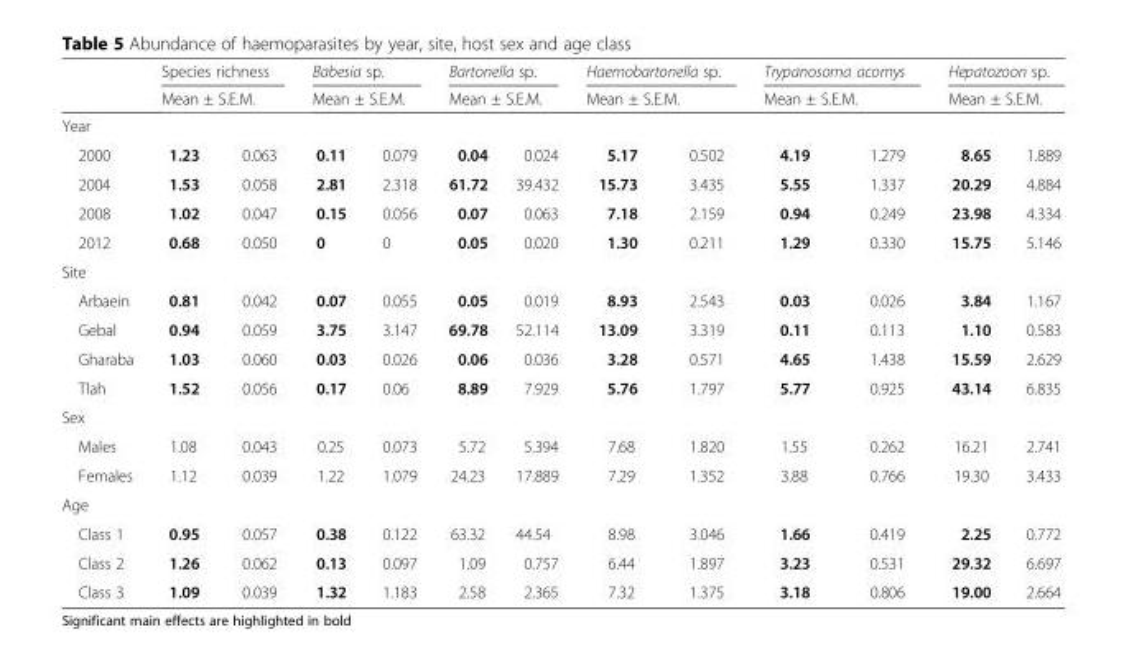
<table><thead><tr><td rowspan="2"></td><td rowspan="2" colspan="2">Species richness Mean ± S.E.M.</td><td rowspan="2" colspan="2">Babesia sp. Mean ± S.E.M.</td><td rowspan="2" colspan="2">Bartonella sp. Mean ± S.E.M.</td><td rowspan="2" colspan="2">Haemobartonella sp. Mean ± S.E.M.</td><td rowspan="2" colspan="2">Trypanosoma acomys Mean ± S.E.M.</td><td rowspan="2" colspan="2">Hepatozoon sp. Mean ± S.E.M.</td></tr><tr></tr><tr><td colspan="13">Year</td></tr><tr><td>2000</td><td>1.23</td><td>0.063</td><td>0.11</td><td>0.079</td><td>0.04</td><td>0.024</td><td>5.17</td><td>0.502</td><td>4.19</td><td>1.279</td><td>8.65</td><td>1.889</td></tr></thead><tbody><tr><td>2004</td><td>1.53</td><td>0.058</td><td>2.81</td><td>2.318</td><td>61.72</td><td>39.432</td><td>15.73</td><td>3.435</td><td>5.55</td><td>1.337</td><td>20.29</td><td>4.884</td></tr><tr><td>2008</td><td>1.02</td><td>0.047</td><td>0.15</td><td>0.056</td><td>0.07</td><td>0.063</td><td>7.18</td><td>2.159</td><td>0.94</td><td>0.249</td><td>23.98</td><td>4.334</td></tr><tr><td>2012</td><td>0.68</td><td>0.050</td><td>0</td><td>0</td><td>0.05</td><td>0.020</td><td>1.30</td><td>0.211</td><td>1.29</td><td>0.330</td><td>15.75</td><td>5.146</td></tr><tr><td colspan="13">Site</td></tr><tr><td>Arbaein</td><td>0.81</td><td>0.042</td><td>0.07</td><td>0.055</td><td>0.05</td><td>0.019</td><td>8.93</td><td>2.543</td><td>0.03</td><td>0.026</td><td>3.84</td><td>1.167</td></tr><tr><td>Gebal</td><td>0.94</td><td>0.059</td><td>3.75</td><td>3.147</td><td>69.78</td><td>52.114</td><td>13.09</td><td>3.319</td><td>0.11</td><td>0.113</td><td>1.10</td><td>0.583</td></tr><tr><td>Gharaba</td><td>1.03</td><td>0.060</td><td>0.03</td><td>0.026</td><td>0.06</td><td>0.036</td><td>3.28</td><td>0.571</td><td>4.65</td><td>1.438</td><td>15.59</td><td>2.629</td></tr><tr><td>Tlah</td><td>1.52</td><td>0.056</td><td>0.17</td><td>0.06</td><td>8.89</td><td>7.929</td><td>5.76</td><td>1.797</td><td>5.77</td><td>0.925</td><td>43.14</td><td>6.835</td></tr><tr><td colspan="13">Sex</td></tr><tr><td>Males</td><td>1.08</td><td>0.043</td><td>0.25</td><td>0.073</td><td>5.72</td><td>5.394</td><td>7.68</td><td>1.820</td><td>1.55</td><td>0.262</td><td>16.21</td><td>2.741</td></tr><tr><td>Females</td><td>1.12</td><td>0.039</td><td>1.22</td><td>1.079</td><td>24.23</td><td>17.889</td><td>7.29</td><td>1.352</td><td>3.88</td><td>0.766</td><td>19.30</td><td>3.433</td></tr><tr><td colspan="13">Age</td></tr><tr><td>Class 1</td><td>0.95</td><td>0.057</td><td>0.38</td><td>0.122</td><td>63.32</td><td>44.54</td><td>8.98</td><td>3.046</td><td>1.66</td><td>0.419</td><td>2.25</td><td>0.772</td></tr><tr><td>Class 2</td><td>1.26</td><td>0.062</td><td>0.13</td><td>0.097</td><td>1.09</td><td>0.757</td><td>6.44</td><td>1.897</td><td>3.23</td><td>0.531</td><td>29.32</td><td>6.697</td></tr><tr><td>Class 3</td><td>1.09</td><td>0.039</td><td>1.32</td><td>1.183</td><td>2.58</td><td>2.365</td><td>7.32</td><td>1.375</td><td>3.18</td><td>0.806</td><td>19.00</td><td>2.664</td></tr></tbody></table>